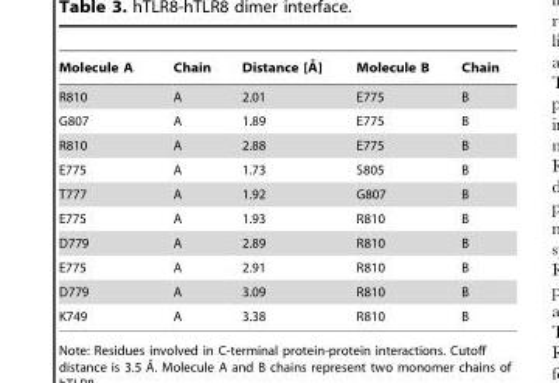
<table><thead><tr><td>Molecule A</td><td>Chain</td><td>Distance [A˚ ]</td><td>Molecule B</td><td>Chain</td></tr></thead><tbody><tr><td>R810</td><td>A</td><td>2.01</td><td>E775</td><td>B</td></tr><tr><td>G807</td><td>A</td><td>1.89</td><td>E775</td><td>B</td></tr><tr><td>R810</td><td>A</td><td>2.88</td><td>E775</td><td>B</td></tr><tr><td>E775</td><td>A</td><td>1.73</td><td>S805</td><td>B</td></tr><tr><td>T777</td><td>A</td><td>1.92</td><td>G807</td><td>B</td></tr><tr><td>E775</td><td>A</td><td>1.93</td><td>R810</td><td>B</td></tr><tr><td>D779</td><td>A</td><td>2.89</td><td>R810</td><td>B</td></tr><tr><td>E775</td><td>A</td><td>2.91</td><td>R810</td><td>B</td></tr><tr><td>D779</td><td>A</td><td>3.09</td><td>R810</td><td>B</td></tr><tr><td>K749</td><td>A</td><td>3.38</td><td>R810</td><td>B</td></tr></tbody></table>